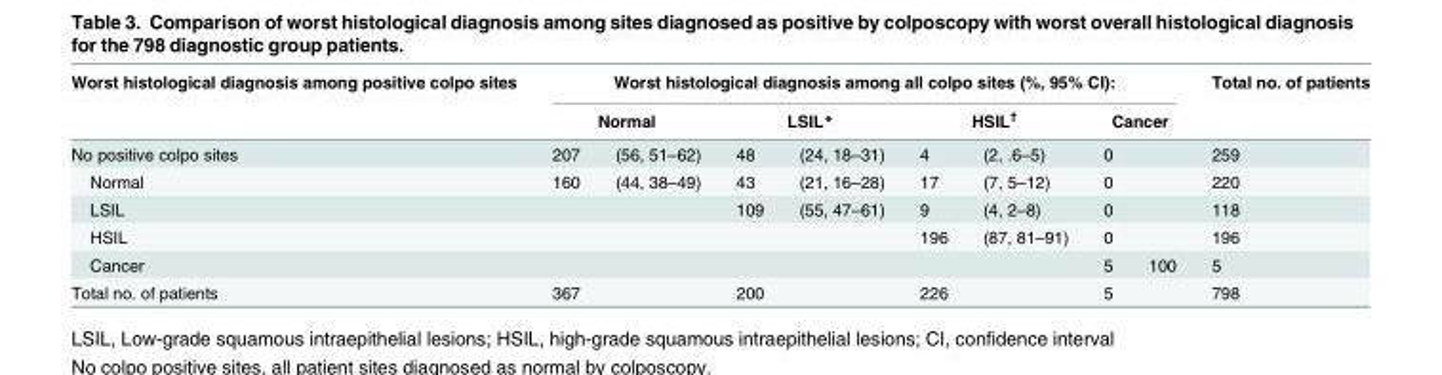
<table><thead><tr><td rowspan="3">Worst histological diagnosis among positive colpo sites No positive colpo sites</td><td colspan="8">Worst histological diagnosis among all colpo sites (%, 95% CI):</td><td rowspan="3">Total no. of patients 259</td></tr><tr><td colspan="2">Normal</td><td colspan="2">LSIL*</td><td colspan="2">HSIL<sup>†</sup></td><td colspan="2">Cancer</td></tr><tr><td>207</td><td>(56, 51–62)</td><td>48</td><td>(24, 18–31)</td><td>4</td><td>(2, .6–5)</td><td>0</td><td></td></tr></thead><tbody><tr><td>Normal</td><td>160</td><td>(44, 38–49)</td><td>43</td><td>(21, 16–28)</td><td>17</td><td>(7, 5–12)</td><td>0</td><td></td><td>220</td></tr><tr><td>LSIL</td><td></td><td></td><td>109</td><td>(55, 47–61)</td><td>9</td><td>(4, 2–8)</td><td>0</td><td></td><td>118</td></tr><tr><td>HSIL</td><td></td><td></td><td></td><td></td><td>196</td><td>(87, 81–91)</td><td>0</td><td></td><td>196</td></tr><tr><td>Cancer</td><td></td><td></td><td></td><td></td><td></td><td></td><td>5</td><td>100</td><td>5</td></tr><tr><td>Total no. of patients</td><td>367</td><td></td><td>200</td><td></td><td>226</td><td></td><td>5</td><td></td><td>798</td></tr></tbody></table>